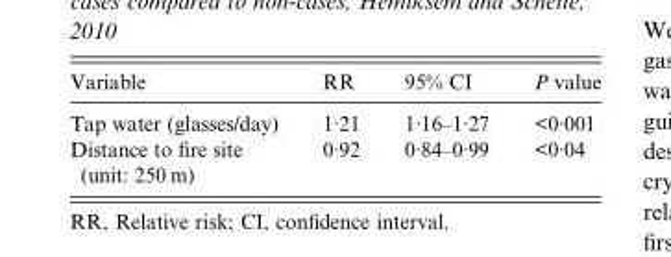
<table><thead><tr><td>Variable</td><td>RR</td><td>95% CI</td><td>P value</td></tr></thead><tbody><tr><td>Tap water (glasses/day)</td><td>1·21</td><td>1·16–1·27</td><td>&lt;0·001</td></tr><tr><td>Distance to fire site (unit: 250 m)</td><td>0·92</td><td>0·84–0·99</td><td>&lt;0·04</td></tr></tbody></table>